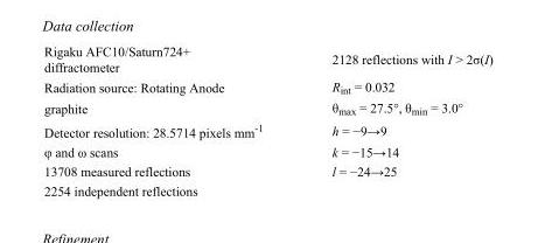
<table><tbody><tr><td>Rigaku AFC10/Saturn724+ diffractometer</td><td>2128 reflections with I &gt; 2σ(I)</td></tr><tr><td>Radiation source: Rotating Anode</td><td>R<sub>int</sub> = 0.032</td></tr><tr><td>graphite</td><td>θ<sub>max</sub> = 27.5°, θ<sub>min</sub> = 3.0°</td></tr><tr><td>Detector resolution: 28.5714 pixels mm<sup>-1</sup></td><td>h = −9→9</td></tr><tr><td>φ and ω scans</td><td>k = −15→14</td></tr><tr><td>13708 measured reflections</td><td>l = −24→25</td></tr><tr><td>2254 independent reflections</td><td></td></tr></tbody></table>